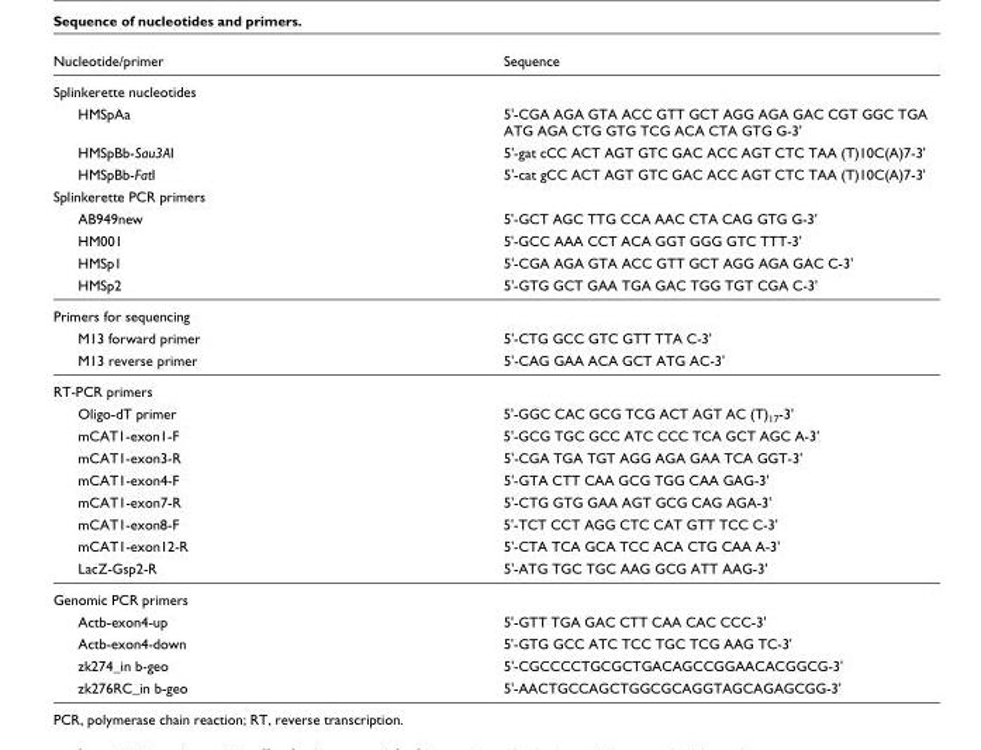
<table><thead><tr><td>Nucleotide/primer</td><td>Sequence</td></tr></thead><tbody><tr><td colspan="2">Splinkerette nucleotides</td></tr><tr><td>HMSpAa</td><td>5&#x27;-CGA AGA GTA ACC GTT GCT AGG AGA GAC CGT GGC TGA ATG AGA CTG GTG TCG ACA CTA GTG G-3&#x27;</td></tr><tr><td>HMSpBb-Sau3AI</td><td>5&#x27;-gat cCC ACT AGT GTC GAC ACC AGT CTC TAA (T)10C(A)7-3&#x27;</td></tr><tr><td>HMSpBb-FatI</td><td>5&#x27;-cat gCC ACT AGT GTC GAC ACC AGT CTC TAA (T)10C(A)7-3&#x27;</td></tr><tr><td colspan="2">Splinkerette PCR primers</td></tr><tr><td>AB949new</td><td>5&#x27;-GCT AGC TTG CCA AAC CTA CAG GTG G-3&#x27;</td></tr><tr><td>HM001</td><td>5&#x27;-GCC AAA CCT ACA GGT GGG GTC TTT-3&#x27;</td></tr><tr><td>HMSp1</td><td>5&#x27;-CGA AGA GTA ACC GTT GCT AGG AGA GAC C-3&#x27;</td></tr><tr><td>HMSp2</td><td>5&#x27;-GTG GCT GAA TGA GAC TGG TGT CGA C-3&#x27;</td></tr><tr><td colspan="2">Primers for sequencing</td></tr><tr><td>M13 forward primer</td><td>5&#x27;-CTG GCC GTC GTT TTA C-3&#x27;</td></tr><tr><td>M13 reverse primer</td><td>5&#x27;-CAG GAA ACA GCT ATG AC-3&#x27;</td></tr><tr><td colspan="2">RT-PCR primers</td></tr><tr><td>Oligo-dT primer</td><td>5&#x27;-GGC CAC GCG TCG ACT AGT AC (T)17-3&#x27;</td></tr><tr><td>mCAT1-exon1-F</td><td>5&#x27;-GCG TGC GCC ATC CCC TCA GCT AGC A-3&#x27;</td></tr><tr><td>mCAT1-exon3-R</td><td>5&#x27;-CGA TGA TGT AGG AGA GAA TCA GGT-3&#x27;</td></tr><tr><td>mCAT1-exon4-F</td><td>5&#x27;-GTA CTT CAA GCG TGG CAA GAG-3&#x27;</td></tr><tr><td>mCAT1-exon7-R</td><td>5&#x27;-CTG GTG GAA AGT GCG CAG AGA-3&#x27;</td></tr><tr><td>mCAT1-exon8-F</td><td>5&#x27;-TCT CCT AGG CTC CAT GTT TCC C-3&#x27;</td></tr><tr><td>mCAT1-exon12-R</td><td>5&#x27;-CTA TCA GCA TCC ACA CTG CAA A-3&#x27;</td></tr><tr><td>LacZ-Gsp2-R</td><td>5&#x27;-ATG TGC TGC AAG GCG ATT AAG-3&#x27;</td></tr><tr><td colspan="2">Genomic PCR primers</td></tr><tr><td>Actb-exon4-up</td><td>5&#x27;-GTT TGA GAC CTT CAA CAC CCC-3&#x27;</td></tr><tr><td>Actb-exon4-down</td><td>5&#x27;-GTG GCC ATC TCC TGC TCG AAG TC-3&#x27;</td></tr><tr><td>zk274_in b-geo</td><td>5&#x27;-CGCCCCTGCGCTGACAGCCGGAACACGGCG-3&#x27;</td></tr><tr><td>zk276RC_in b-geo</td><td>5&#x27;-AACTGCCAGCTGGCGCAGGTAGCAGAGCGG-3&#x27;</td></tr></tbody></table>